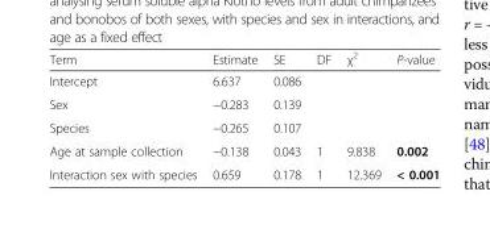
<table><thead><tr><td>Term</td><td>Estimate</td><td>SE</td><td>DF</td><td>χ<sup>2</sup></td><td>P-value</td></tr></thead><tbody><tr><td>Intercept</td><td>6.637</td><td>0.086</td><td></td><td></td><td></td></tr><tr><td>Sex</td><td>−0.283</td><td>0.139</td><td></td><td></td><td></td></tr><tr><td>Species</td><td>−0.265</td><td>0.107</td><td></td><td></td><td></td></tr><tr><td>Age at sample collection</td><td>−0.138</td><td>0.043</td><td>1</td><td>9.838</td><td>0.002</td></tr><tr><td>Interaction sex with species</td><td>0.659</td><td>0.178</td><td>1</td><td>12.369</td><td>&lt; 0.001</td></tr></tbody></table>